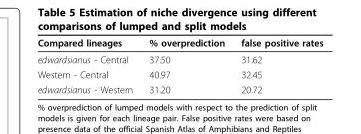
<table><thead><tr><td>Compared lineages</td><td>% overprediction</td><td>false positive rates</td></tr></thead><tbody><tr><td>edwardsianus - Central</td><td>37.50</td><td>31.62</td></tr><tr><td>Western - Central</td><td>40.97</td><td>32.45</td></tr><tr><td>edwardsianus - Western</td><td>31.20</td><td>20.72</td></tr></tbody></table>